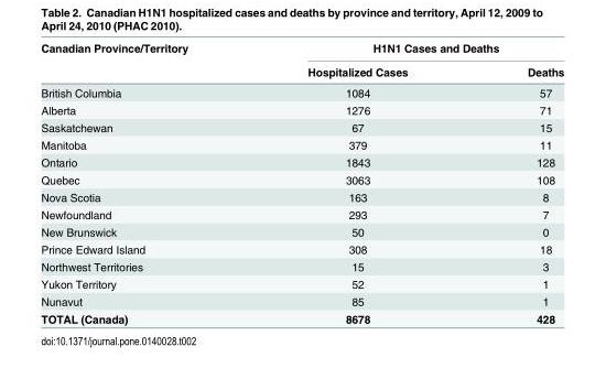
<table><thead><tr><td rowspan="2">Canadian Province/Territory</td><td colspan="2">H1N1 Cases and Deaths</td></tr><tr><td>Hospitalized Cases</td><td>Deaths</td></tr></thead><tbody><tr><td>British Columbia</td><td>1084</td><td>57</td></tr><tr><td>Alberta</td><td>1276</td><td>71</td></tr><tr><td>Saskatchewan</td><td>67</td><td>15</td></tr><tr><td>Manitoba</td><td>379</td><td>11</td></tr><tr><td>Ontario</td><td>1843</td><td>128</td></tr><tr><td>Quebec</td><td>3063</td><td>108</td></tr><tr><td>Nova Scotia</td><td>163</td><td>8</td></tr><tr><td>Newfoundland</td><td>293</td><td>7</td></tr><tr><td>New Brunswick</td><td>50</td><td>0</td></tr><tr><td>Prince Edward Island</td><td>308</td><td>18</td></tr><tr><td>Northwest Territories</td><td>15</td><td>3</td></tr><tr><td>Yukon Territory</td><td>52</td><td>1</td></tr><tr><td>Nunavut</td><td>85</td><td>1</td></tr><tr><td>TOTAL (Canada)</td><td>8678</td><td>428</td></tr></tbody></table>